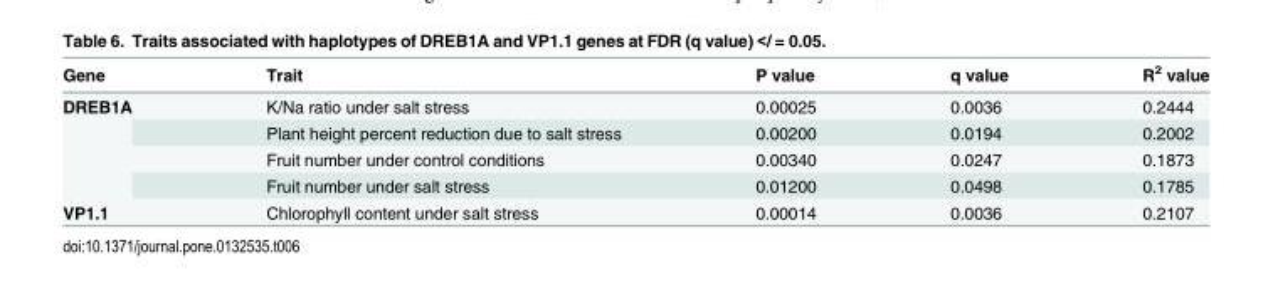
<table><thead><tr><td>Gene</td><td>Trait</td><td>P value</td><td>q value</td><td>R<sup>2</sup> value</td></tr></thead><tbody><tr><td rowspan="4">DREB1A</td><td>K/Na ratio under salt stress</td><td>0.00025</td><td>0.0036</td><td>0.2444</td></tr><tr><td>Plant height percent reduction due to salt stress</td><td>0.00200</td><td>0.0194</td><td>0.2002</td></tr><tr><td>Fruit number under control conditions</td><td>0.00340</td><td>0.0247</td><td>0.1873</td></tr><tr><td>Fruit number under salt stress</td><td>0.01200</td><td>0.0498</td><td>0.1785</td></tr><tr><td>VP1.1</td><td>Chlorophyll content under salt stress</td><td>0.00014</td><td>0.0036</td><td>0.2107</td></tr></tbody></table>